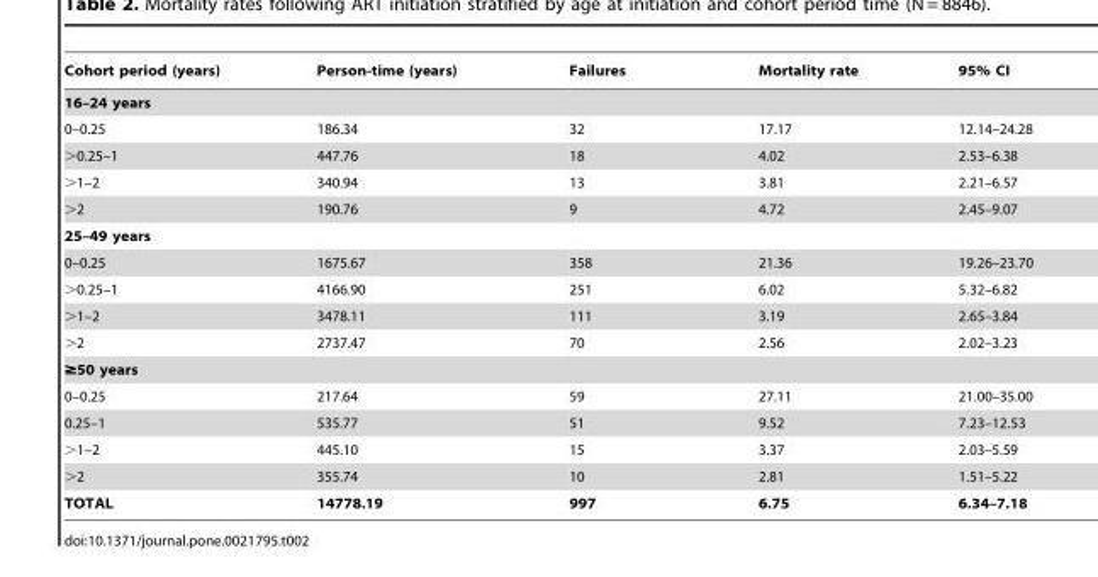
<table><thead><tr><td>Cohort period (years)</td><td>Person-time (years)</td><td>Failures</td><td>Mortality rate</td><td>95% CI</td></tr></thead><tbody><tr><td colspan="5">16–24 years</td></tr><tr><td>0–0.25</td><td>186.34</td><td>32</td><td>17.17</td><td>12.14–24.28</td></tr><tr><td>&gt;0.25–1</td><td>447.76</td><td>18</td><td>4.02</td><td>2.53–6.38</td></tr><tr><td>&gt;1–2</td><td>340.94</td><td>13</td><td>3.81</td><td>2.21–6.57</td></tr><tr><td>&gt;2</td><td>190.76</td><td>9</td><td>4.72</td><td>2.45–9.07</td></tr><tr><td colspan="5">25–49 years</td></tr><tr><td>0–0.25</td><td>1675.67</td><td>358</td><td>21.36</td><td>19.26–23.70</td></tr><tr><td>&gt;0.25–1</td><td>4166.90</td><td>251</td><td>6.02</td><td>5.32–6.82</td></tr><tr><td>&gt;1–2</td><td>3478.11</td><td>111</td><td>3.19</td><td>2.65–3.84</td></tr><tr><td>&gt;2</td><td>2737.47</td><td>70</td><td>2.56</td><td>2.02–3.23</td></tr><tr><td colspan="5">≥50 years</td></tr><tr><td>0–0.25</td><td>217.64</td><td>59</td><td>27.11</td><td>21.00–35.00</td></tr><tr><td>0.25–1</td><td>535.77</td><td>51</td><td>9.52</td><td>7.23–12.53</td></tr><tr><td>&gt;1–2</td><td>445.10</td><td>15</td><td>3.37</td><td>2.03–5.59</td></tr><tr><td>&gt;2</td><td>355.74</td><td>10</td><td>2.81</td><td>1.51–5.22</td></tr><tr><td>TOTAL</td><td>14778.19</td><td>997</td><td>6.75</td><td>6.34–7.18</td></tr></tbody></table>